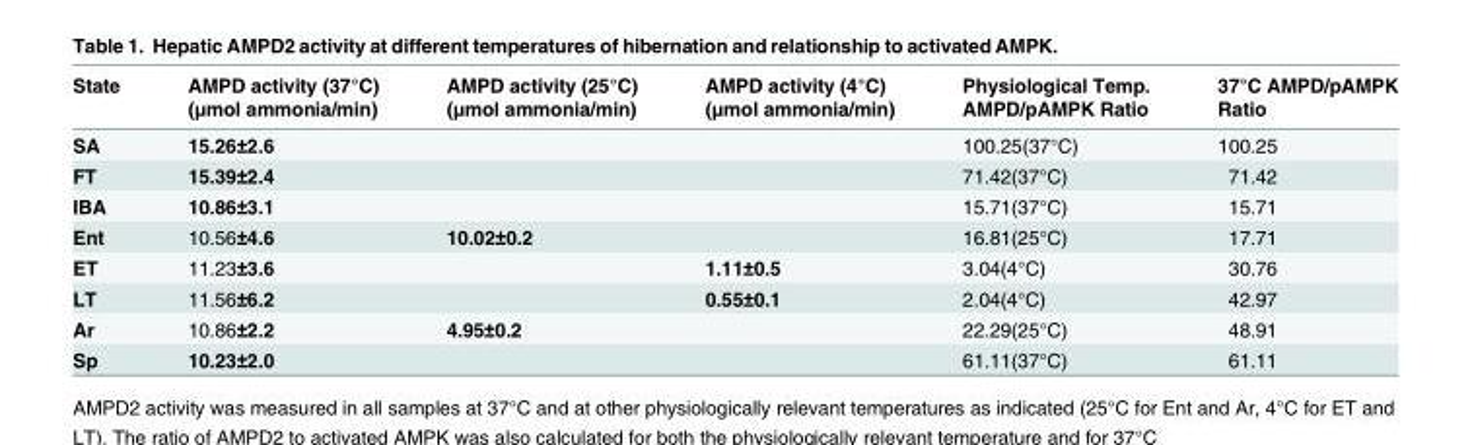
<table><thead><tr><td>State</td><td>AMPD activity (37°C) (μmol ammonia/min)</td><td>AMPD activity (25°C) (μmol ammonia/min)</td><td>AMPD activity (4°C) (μmol ammonia/min)</td><td>Physiological Temp. AMPD/pAMPK Ratio</td><td>37°C AMPD/pAMPK Ratio</td></tr></thead><tbody><tr><td>SA</td><td>15.26±2.6</td><td></td><td></td><td>100.25(37°C)</td><td>100.25</td></tr><tr><td>FT</td><td>15.39±2.4</td><td></td><td></td><td>71.42(37°C)</td><td>71.42</td></tr><tr><td>IBA</td><td>10.86±3.1</td><td></td><td></td><td>15.71(37°C)</td><td>15.71</td></tr><tr><td>Ent</td><td>10.56±4.6</td><td>10.02±0.2</td><td></td><td>16.81(25°C)</td><td>17.71</td></tr><tr><td>ET</td><td>11.23±3.6</td><td></td><td>1.11±0.5</td><td>3.04(4°C)</td><td>30.76</td></tr><tr><td>LT</td><td>11.56±6.2</td><td></td><td>0.55±0.1</td><td>2.04(4°C)</td><td>42.97</td></tr><tr><td>Ar</td><td>10.86±2.2</td><td>4.95±0.2</td><td></td><td>22.29(25°C)</td><td>48.91</td></tr><tr><td>Sp</td><td>10.23±2.0</td><td></td><td></td><td>61.11(37°C)</td><td>61.11</td></tr></tbody></table>